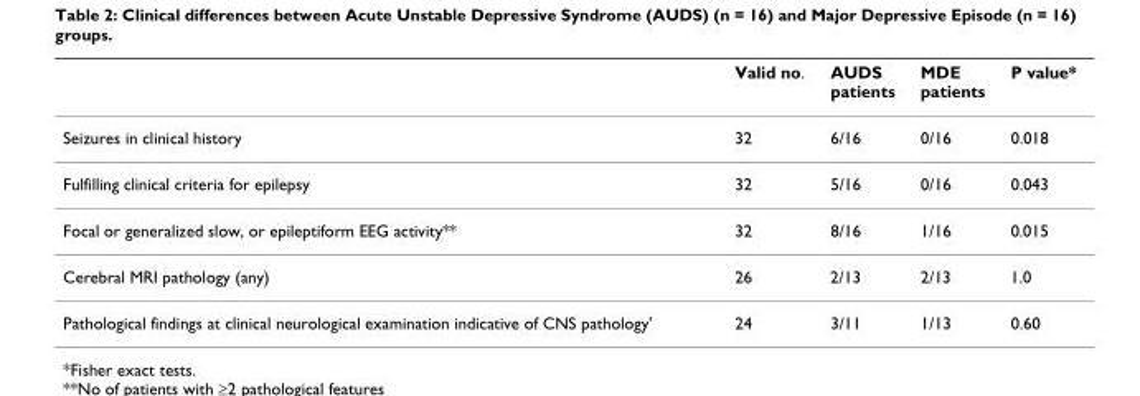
<table><thead><tr><td></td><td>Valid no.</td><td>AUDS patients</td><td>MDE patients</td><td>P value*</td></tr></thead><tbody><tr><td>Seizures in clinical history</td><td>32</td><td>6/16</td><td>0/16</td><td>0.018</td></tr><tr><td>Fulfilling clinical criteria for epilepsy</td><td>32</td><td>5/16</td><td>0/16</td><td>0.043</td></tr><tr><td>Focal or generalized slow, or epileptiform EEG activity**</td><td>32</td><td>8/16</td><td>1/16</td><td>0.015</td></tr><tr><td>Cerebral MRI pathology (any)</td><td>26</td><td>2/13</td><td>2/13</td><td>1.0</td></tr><tr><td>Pathological findings at clinical neurological examination indicative of CNS pathology&#x27;</td><td>24</td><td>3/11</td><td>1/13</td><td>0.60</td></tr></tbody></table>